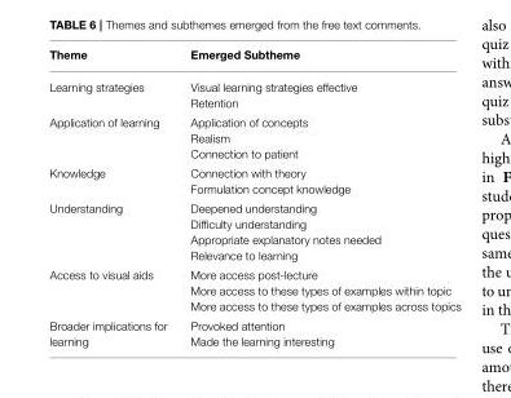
<table><thead><tr><td>Theme</td><td>Emerged Subtheme</td></tr></thead><tbody><tr><td>Learning strategies</td><td>Visual learning strategies effective Retention</td></tr><tr><td>Application of learning</td><td>Application of concepts Realism Connection to patient</td></tr><tr><td>Knowledge</td><td>Connection with theory Formulation concept knowledge</td></tr><tr><td>Understanding</td><td>Deepened understanding Difficulty understanding Appropriate explanatory notes needed Relevance to learning</td></tr><tr><td>Access to visual aids</td><td>More access post-lecture More access to these types of examples within topic More access to these types of examples across topics</td></tr><tr><td>Broader implications for learning</td><td>Provoked attention Made the learning interesting</td></tr></tbody></table>